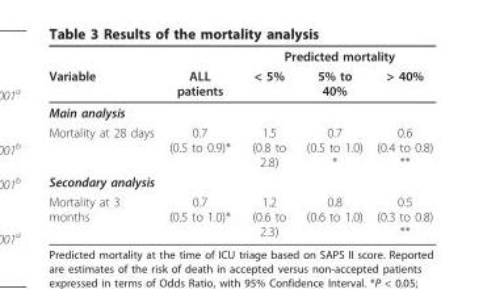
<table><thead><tr><td rowspan="2">Variable</td><td rowspan="2">ALL patients</td><td colspan="3">Predicted mortality</td></tr><tr><td>&lt; 5%</td><td>5% to 40%</td><td>&gt; 40%</td></tr></thead><tbody><tr><td colspan="5">Main analysis</td></tr><tr><td>Mortality at 28 days</td><td>0.7 (0.5 to 0.9)*</td><td>1.5 (0.8 to 2.8)</td><td>0.7 (0.5 to 1.0) *</td><td>0.6 (0.4 to 0.8) **</td></tr><tr><td colspan="5">Secondary analysis</td></tr><tr><td>Mortality at 3 months</td><td>0.7 (0.5 to 1.0)*</td><td>1.2 (0.6 to 2.3)</td><td>0.8 (0.6 to 1.0)</td><td>0.5 (0.3 to 0.8) **</td></tr></tbody></table>